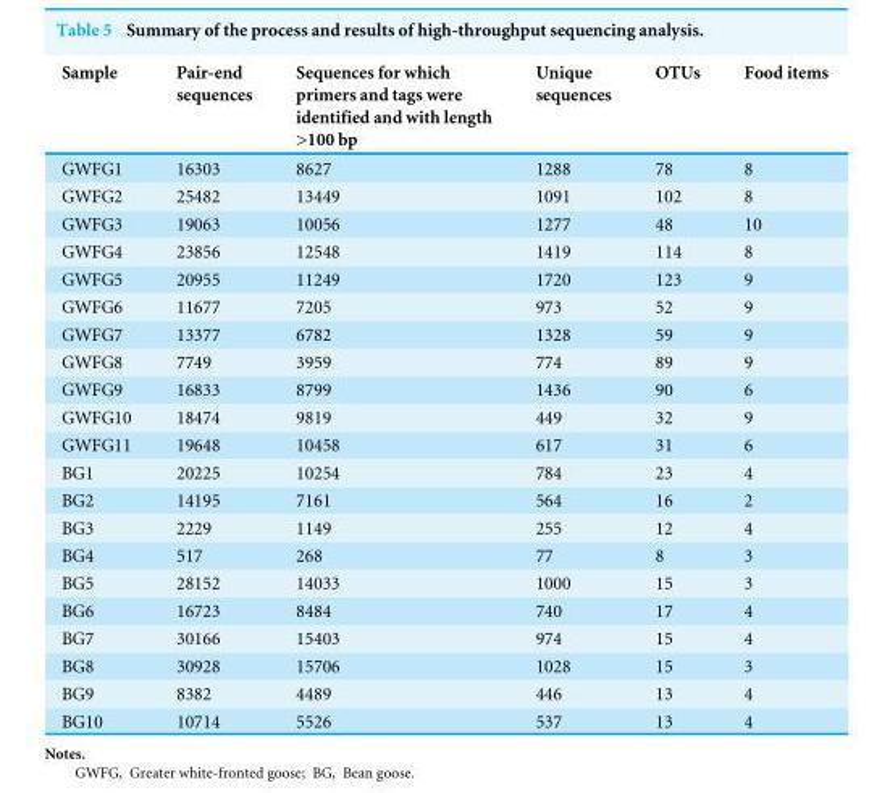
<table><thead><tr><td>Sample</td><td>Pair-end sequences</td><td>Sequences for which primers and tags were identified and with length &gt;100 bp</td><td>Unique sequences</td><td>OTUs</td><td>Food items</td></tr></thead><tbody><tr><td>GWFG1</td><td>16303</td><td>8627</td><td>1288</td><td>78</td><td>8</td></tr><tr><td>GWFG2</td><td>25482</td><td>13449</td><td>1091</td><td>102</td><td>8</td></tr><tr><td>GWFG3</td><td>19063</td><td>10056</td><td>1277</td><td>48</td><td>10</td></tr><tr><td>GWFG4</td><td>23856</td><td>12548</td><td>1419</td><td>114</td><td>8</td></tr><tr><td>GWFG5</td><td>20955</td><td>11249</td><td>1720</td><td>123</td><td>9</td></tr><tr><td>GWFG6</td><td>11677</td><td>7205</td><td>973</td><td>52</td><td>9</td></tr><tr><td>GWFG7</td><td>13377</td><td>6782</td><td>1328</td><td>59</td><td>9</td></tr><tr><td>GWFG8</td><td>7749</td><td>3959</td><td>774</td><td>89</td><td>9</td></tr><tr><td>GWFG9</td><td>16833</td><td>8799</td><td>1436</td><td>90</td><td>6</td></tr><tr><td>GWFG10</td><td>18474</td><td>9819</td><td>449</td><td>32</td><td>9</td></tr><tr><td>GWFG11</td><td>19648</td><td>10458</td><td>617</td><td>31</td><td>6</td></tr><tr><td>BG1</td><td>20225</td><td>10254</td><td>784</td><td>23</td><td>4</td></tr><tr><td>BG2</td><td>14195</td><td>7161</td><td>564</td><td>16</td><td>2</td></tr><tr><td>BG3</td><td>2229</td><td>1149</td><td>255</td><td>12</td><td>4</td></tr><tr><td>BG4</td><td>517</td><td>268</td><td>77</td><td>8</td><td>3</td></tr><tr><td>BG5</td><td>28152</td><td>14033</td><td>1000</td><td>15</td><td>3</td></tr><tr><td>BG6</td><td>16723</td><td>8484</td><td>740</td><td>17</td><td>4</td></tr><tr><td>BG7</td><td>30166</td><td>15403</td><td>974</td><td>15</td><td>4</td></tr><tr><td>BG8</td><td>30928</td><td>15706</td><td>1028</td><td>15</td><td>3</td></tr><tr><td>BG9</td><td>8382</td><td>4489</td><td>446</td><td>13</td><td>4</td></tr><tr><td>BG10</td><td>10714</td><td>5526</td><td>537</td><td>13</td><td>4</td></tr></tbody></table>